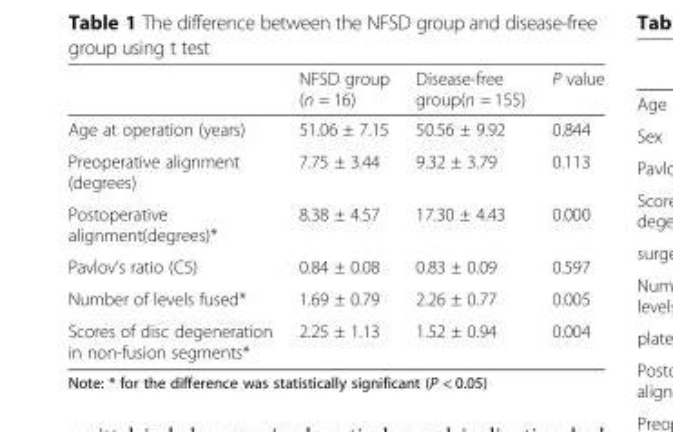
<table><thead><tr><td></td><td>NFSD group (n = 16)</td><td>Disease-free group(n = 155)</td><td>P value</td></tr></thead><tbody><tr><td>Age at operation (years)</td><td>51.06 ± 7.15</td><td>50.56 ± 9.92</td><td>0.844</td></tr><tr><td>Preoperative alignment (degrees)</td><td>7.75 ± 3.44</td><td>9.32 ± 3.79</td><td>0.113</td></tr><tr><td>Postoperative alignment(degrees)*</td><td>8.38 ± 4.57</td><td>17.30 ± 4.43</td><td>0.000</td></tr><tr><td>Pavlov’s ratio (C5)</td><td>0.84 ± 0.08</td><td>0.83 ± 0.09</td><td>0.597</td></tr><tr><td>Number of levels fused*</td><td>1.69 ± 0.79</td><td>2.26 ± 0.77</td><td>0.005</td></tr><tr><td>Scores of disc degeneration in non-fusion segments*</td><td>2.25 ± 1.13</td><td>1.52 ± 0.94</td><td>0.004</td></tr></tbody></table>